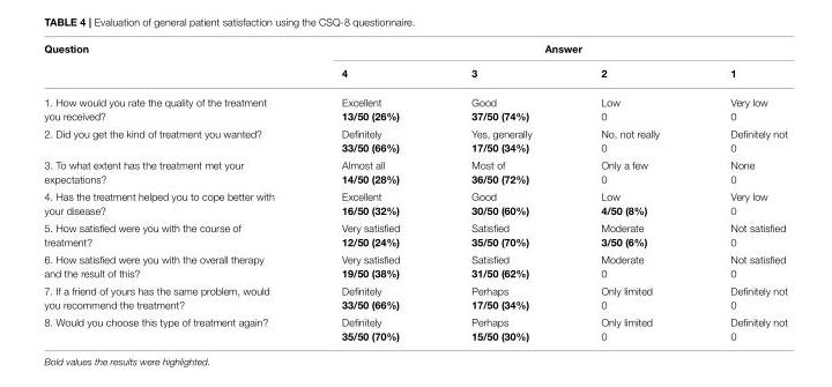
<table><thead><tr><td rowspan="2">Question</td><td colspan="4">Answer</td></tr><tr><td>4</td><td>3</td><td>2</td><td>1</td></tr></thead><tbody><tr><td>1. How would you rate the quality of the treatment you received?</td><td>Excellent 13/50 (26%)</td><td>Good 37/50 (74%)</td><td>Low 0</td><td>Very low 0</td></tr><tr><td>2. Did you get the kind of treatment you wanted?</td><td>Definitely 33/50 (66%)</td><td>Yes, generally 17/50 (34%)</td><td>No, not really 0</td><td>Definitely not 0</td></tr><tr><td>3. To what extent has the treatment met your expectations?</td><td>Almost all 14/50 (28%)</td><td>Most of 36/50 (72%)</td><td>Only a few 0</td><td>None 0</td></tr><tr><td>4. Has the treatment helped you to cope better with your disease?</td><td>Excellent 16/50 (32%)</td><td>Good 30/50 (60%)</td><td>Low 4/50 (8%)</td><td>Very low 0</td></tr><tr><td>5. How satisfied were you with the course of treatment?</td><td>Very satisfied 12/50 (24%)</td><td>Satisfied 35/50 (70%)</td><td>Moderate 3/50 (6%)</td><td>Not satisfied 0</td></tr><tr><td>6. How satisfied were you with the overall therapy and the result of this?</td><td>Very satisfied 19/50 (38%)</td><td>Satisfied 31/50 (62%)</td><td>Moderate 0</td><td>Not satisfied 0</td></tr><tr><td>7. If a friend of yours has the same problem, would you recommend the treatment?</td><td>Definitely 33/50 (66%)</td><td>Perhaps 17/50 (34%)</td><td>Only limited 0</td><td>Definitely not 0</td></tr><tr><td>8. Would you choose this type of treatment again?</td><td>Definitely 35/50 (70%)</td><td>Perhaps 15/50 (30%)</td><td>Only limited 0</td><td>Definitely not 0</td></tr></tbody></table>